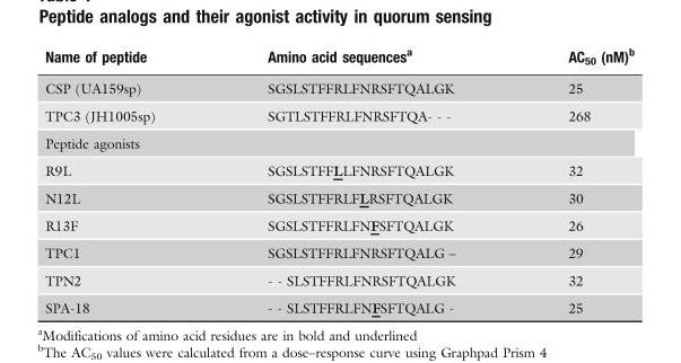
<table><thead><tr><td>Name of peptide</td><td>Amino acid sequences<sup>a</sup></td><td>AC<sub>50</sub> (nM)<sup>b</sup></td></tr></thead><tbody><tr><td>CSP (UA159sp)</td><td>SGSLSTFFRLFNRSFTQALGK</td><td>25</td></tr><tr><td>TPC3 (JH1005sp)</td><td>SGTLSTFFRLFNRSFTQA- - -</td><td>268</td></tr><tr><td colspan="3">Peptide agonists</td></tr><tr><td>R9L</td><td>SGSLSTFFLLFNRSFTQALGK</td><td>32</td></tr><tr><td>N12L</td><td>SGSLSTFFRLFLRSFTQALGK</td><td>30</td></tr><tr><td>R13F</td><td>SGSLSTFFRLFNFSFTQALGK</td><td>26</td></tr><tr><td>TPC1</td><td>SGSLSTFFRLFNRSFTQALG –</td><td>29</td></tr><tr><td>TPN2</td><td>- - SLSTFFRLFNRSFTQALGK</td><td>32</td></tr><tr><td>SPA-18</td><td>- - SLSTFFRLFNFSFTQALG -</td><td>25</td></tr></tbody></table>